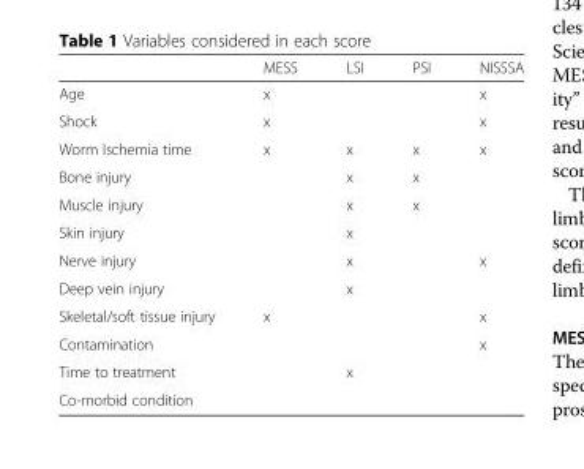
<table><thead><tr><td></td><td>MESS</td><td>LSI</td><td>PSI</td><td>NISSSA</td></tr></thead><tbody><tr><td>Age</td><td>x</td><td></td><td></td><td>x</td></tr><tr><td>Shock</td><td>x</td><td></td><td></td><td>x</td></tr><tr><td>Worm Ischemia time</td><td>x</td><td>x</td><td>x</td><td>x</td></tr><tr><td>Bone injury</td><td></td><td>x</td><td>x</td><td></td></tr><tr><td>Muscle injury</td><td></td><td>x</td><td>x</td><td></td></tr><tr><td>Skin injury</td><td></td><td>x</td><td></td><td></td></tr><tr><td>Nerve injury</td><td></td><td>x</td><td></td><td>x</td></tr><tr><td>Deep vein injury</td><td></td><td>x</td><td></td><td></td></tr><tr><td>Skeletal/soft tissue injury</td><td>x</td><td></td><td></td><td>x</td></tr><tr><td>Contamination</td><td></td><td></td><td></td><td>x</td></tr><tr><td>Time to treatment</td><td></td><td>x</td><td></td><td></td></tr><tr><td>Co-morbid condition</td><td></td><td></td><td></td><td></td></tr></tbody></table>